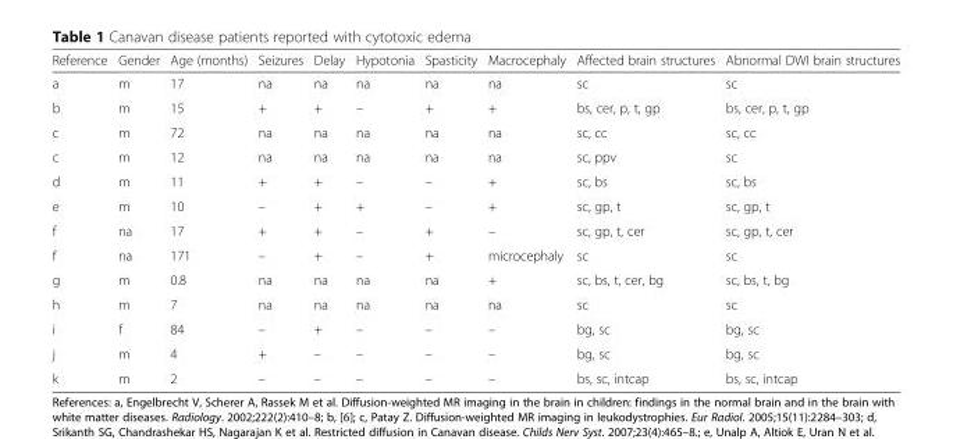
<table><thead><tr><td>Reference</td><td>Gender</td><td>Age (months)</td><td>Seizures</td><td>Delay</td><td>Hypotonia</td><td>Spasticity</td><td>Macrocephaly</td><td>Affected brain structures</td><td>Abnormal DWI brain structures</td></tr></thead><tbody><tr><td>a</td><td>m</td><td>17</td><td>na</td><td>na</td><td>na</td><td>na</td><td>na</td><td>sc</td><td>sc</td></tr><tr><td>b</td><td>m</td><td>15</td><td>+</td><td>+</td><td>–</td><td>+</td><td>+</td><td>bs, cer, p, t, gp</td><td>bs, cer, p, t, gp</td></tr><tr><td>c</td><td>m</td><td>72</td><td>na</td><td>na</td><td>na</td><td>na</td><td>na</td><td>sc, cc</td><td>sc, cc</td></tr><tr><td>c</td><td>m</td><td>12</td><td>na</td><td>na</td><td>na</td><td>na</td><td>na</td><td>sc, ppv</td><td>sc</td></tr><tr><td>d</td><td>m</td><td>11</td><td>+</td><td>+</td><td>–</td><td>–</td><td>+</td><td>sc, bs</td><td>sc, bs</td></tr><tr><td>e</td><td>m</td><td>10</td><td>–</td><td>+</td><td>+</td><td>–</td><td>+</td><td>sc, gp, t</td><td>sc, gp, t</td></tr><tr><td>f</td><td>na</td><td>17</td><td>+</td><td>+</td><td>–</td><td>+</td><td>–</td><td>sc, gp, t, cer</td><td>sc, gp, t, cer</td></tr><tr><td>f</td><td>na</td><td>171</td><td>–</td><td>+</td><td>–</td><td>+</td><td>microcephaly</td><td>sc</td><td>sc</td></tr><tr><td>g</td><td>m</td><td>0.8</td><td>na</td><td>na</td><td>na</td><td>na</td><td>+</td><td>sc, bs, t, cer, bg</td><td>sc, bs, t, bg</td></tr><tr><td>h</td><td>m</td><td>7</td><td>na</td><td>na</td><td>na</td><td>na</td><td>na</td><td>sc</td><td>sc</td></tr><tr><td>i</td><td>f</td><td>84</td><td>–</td><td>+</td><td>–</td><td>–</td><td>–</td><td>bg, sc</td><td>bg, sc</td></tr><tr><td>j</td><td>m</td><td>4</td><td>+</td><td>–</td><td>–</td><td>–</td><td>–</td><td>bg, sc</td><td>bg, sc</td></tr><tr><td>k</td><td>m</td><td>2</td><td>–</td><td>–</td><td>–</td><td>–</td><td>–</td><td>bs, sc, intcap</td><td>bs, sc, intcap</td></tr></tbody></table>